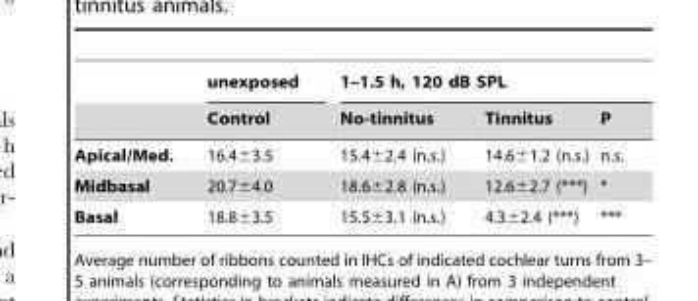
<table><thead><tr><td rowspan="2"></td><td rowspan="2">unexposed Control</td><td colspan="3">1–1.5 h, 120 dB SPL</td></tr><tr><td>No-tinnitus</td><td>Tinnitus</td><td>P</td></tr></thead><tbody><tr><td>Apical/Med.</td><td>16.4±3.5</td><td>15.4±2.4 (n.s.)</td><td>14.6±1.2 (n.s.)</td><td>n.s.</td></tr><tr><td>Midbasal</td><td>20.7±4.0</td><td>18.6±2.8 (n.s.)</td><td>12.6±2.7 (***)</td><td>*</td></tr><tr><td>Basal</td><td>18.8±3.5</td><td>15.5±3.1 (n.s.)</td><td>4.3±2.4 (***)</td><td>***</td></tr></tbody></table>